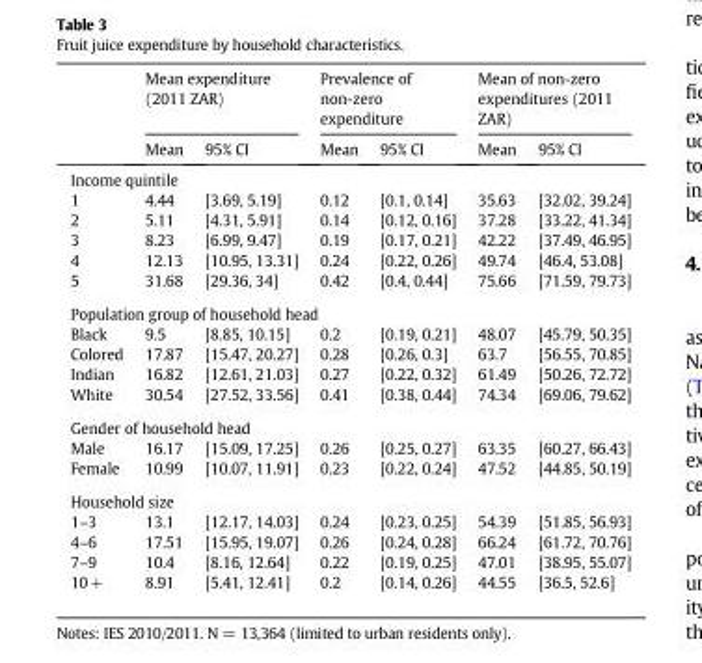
<table><thead><tr><td rowspan="2"></td><td colspan="2">Mean expenditure (2011 ZAR)</td><td colspan="2">Prevalence of non-zero expenditure</td><td colspan="2">Mean of non-zero expenditures (2011 ZAR)</td></tr><tr><td>Mean</td><td>95% CI</td><td>Mean</td><td>95% CI</td><td>Mean</td><td>95% CI</td></tr></thead><tbody><tr><td colspan="7">Income quintile</td></tr><tr><td>1</td><td>4.44</td><td>[3.69, 5.19]</td><td>0.12</td><td>[0.1, 0.14]</td><td>35.63</td><td>[32.02, 39.24]</td></tr><tr><td>2</td><td>5.11</td><td>[4.31, 5.91]</td><td>0.14</td><td>[0.12, 0.16]</td><td>37.28</td><td>[33.22, 41.34]</td></tr><tr><td>3</td><td>8.23</td><td>[6.99, 9.47]</td><td>0.19</td><td>[0.17, 0.21]</td><td>42.22</td><td>[37.49, 46.95]</td></tr><tr><td>4</td><td>12.13</td><td>[10.95, 13.31]</td><td>0.24</td><td>[0.22, 0.26]</td><td>49.74</td><td>[46.4, 53.08]</td></tr><tr><td>5</td><td>31.68</td><td>[29.36, 34]</td><td>0.42</td><td>[0.4, 0.44]</td><td>75.66</td><td>[71.59, 79.73]</td></tr><tr><td colspan="7">Population group of household head</td></tr><tr><td>Black</td><td>9.5</td><td>[8.85, 10.15]</td><td>0.2</td><td>[0.19, 0.21]</td><td>48.07</td><td>[45.79, 50.35]</td></tr><tr><td>Colored</td><td>17.87</td><td>[15.47, 20.27]</td><td>0.28</td><td>[0.26, 0.3]</td><td>63.7</td><td>[56.55, 70.85]</td></tr><tr><td>Indian</td><td>16.82</td><td>[12.61, 21.03]</td><td>0.27</td><td>[0.22, 0.32]</td><td>61.49</td><td>[50.26, 72.72]</td></tr><tr><td>White</td><td>30.54</td><td>[27.52, 33.56]</td><td>0.41</td><td>[0.38, 0.44]</td><td>74.34</td><td>[69.06, 79.62]</td></tr><tr><td colspan="7">Gender of household head</td></tr><tr><td>Male</td><td>16.17</td><td>[15.09, 17.25]</td><td>0.26</td><td>[0.25, 0.27]</td><td>63.35</td><td>[60.27, 66.43]</td></tr><tr><td>Female</td><td>10.99</td><td>[10.07, 11.91]</td><td>0.23</td><td>[0.22, 0.24]</td><td>47.52</td><td>[44.85, 50.19]</td></tr><tr><td colspan="7">Household size</td></tr><tr><td>1–3</td><td>13.1</td><td>[12.17, 14.03]</td><td>0.24</td><td>[0.23, 0.25]</td><td>54.39</td><td>[51.85, 56.93]</td></tr><tr><td>4–6</td><td>17.51</td><td>[15.95, 19.07]</td><td>0.26</td><td>[0.24, 0.28]</td><td>66.24</td><td>[61.72, 70.76]</td></tr><tr><td>7–9</td><td>10.4</td><td>[8.16, 12.64]</td><td>0.22</td><td>[0.19, 0.25]</td><td>47.01</td><td>[38.95, 55.07]</td></tr><tr><td>10+</td><td>8.91</td><td>[5.41, 12.41]</td><td>0.2</td><td>[0.14, 0.26]</td><td>44.55</td><td>[36.5, 52.6]</td></tr></tbody></table>